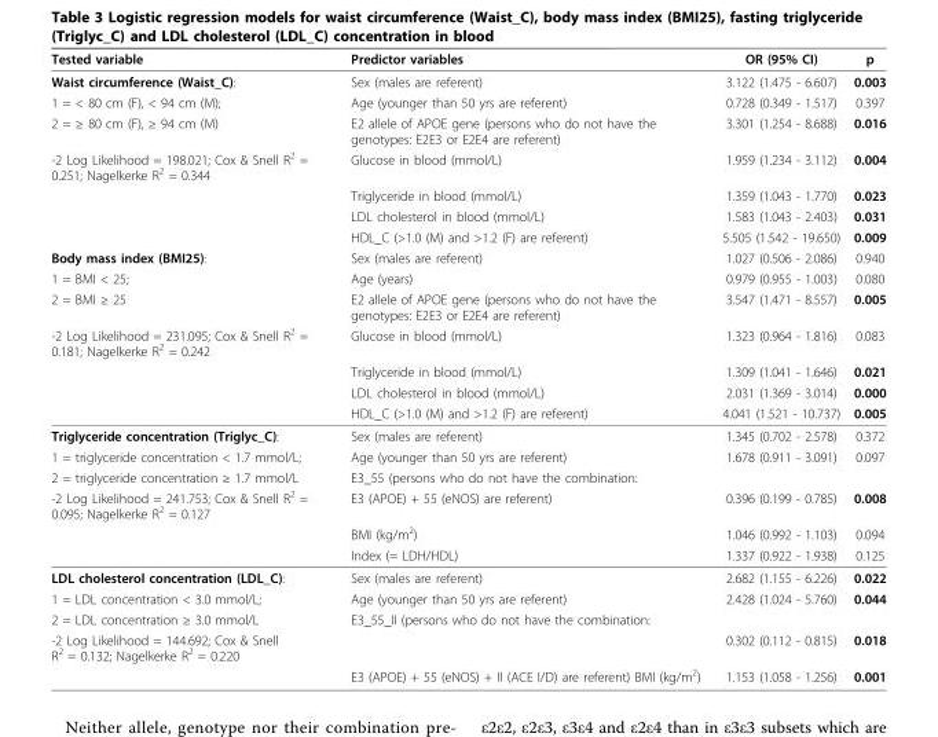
<table><thead><tr><td>Tested variable</td><td>Predictor variables</td><td>OR (95% CI)</td><td>p</td></tr></thead><tbody><tr><td>Waist circumference (Waist_C):</td><td>Sex (males are referent)</td><td>3.122 (1.475 - 6.607)</td><td>0.003</td></tr><tr><td>1 = &lt; 80 cm (F), &lt; 94 cm (M);</td><td>Age (younger than 50 yrs are referent)</td><td>0.728 (0.349 - 1.517)</td><td>0.397</td></tr><tr><td>2 = ≥ 80 cm (F), ≥ 94 cm (M)</td><td>E2 allele of APOE gene (persons who do not have the genotypes: E2E3 or E2E4 are referent)</td><td>3.301 (1.254 - 8.688)</td><td>0.016</td></tr><tr><td rowspan="4">-2 Log Likelihood = 198.021; Cox &amp; Snell R<sup>2</sup> = 0.251; Nagelkerke R<sup>2</sup> = 0.344</td><td>Glucose in blood (mmol/L)</td><td>1.959 (1.234 - 3.112)</td><td>0.004</td></tr><tr><td>Triglyceride in blood (mmol/L)</td><td>1.359 (1.043 - 1.770)</td><td>0.023</td></tr><tr><td>LDL cholesterol in blood (mmol/L)</td><td>1.583 (1.043 - 2.403)</td><td>0.031</td></tr><tr><td>HDL_C (&gt;1.0 (M) and &gt;1.2 (F) are referent)</td><td>5.505 (1.542 - 19.650)</td><td>0.009</td></tr><tr><td>Body mass index (BMI25):</td><td>Sex (males are referent)</td><td>1.027 (0.506 - 2.086)</td><td>0.940</td></tr><tr><td>1 = BMI &lt; 25;</td><td>Age (years)</td><td>0.979 (0.955 - 1.003)</td><td>0.080</td></tr><tr><td>2 = BMI ≥ 25</td><td>E2 allele of APOE gene (persons who do not have the genotypes: E2E3 or E2E4 are referent)</td><td>3.547 (1.471 - 8.557)</td><td>0.005</td></tr><tr><td rowspan="4">-2 Log Likelihood = 231.095; Cox &amp; Snell R<sup>2</sup> = 0.181; Nagelkerke R<sup>2</sup> = 0.242</td><td>Glucose in blood (mmol/L)</td><td>1.323 (0.964 - 1.816)</td><td>0.083</td></tr><tr><td>Triglyceride in blood (mmol/L)</td><td>1.309 (1.041 - 1.646)</td><td>0.021</td></tr><tr><td>LDL cholesterol in blood (mmol/L)</td><td>2.031 (1.369 - 3.014)</td><td>0.000</td></tr><tr><td>HDL_C (&gt;1.0 (M) and &gt;1.2 (F) are referent)</td><td>4.041 (1.521 - 10.737)</td><td>0.005</td></tr><tr><td>Triglyceride concentration (Triglyc_C):</td><td>Sex (males are referent)</td><td>1.345 (0.702 - 2.578)</td><td>0.372</td></tr><tr><td>1 = triglyceride concentration &lt; 1.7 mmol/L;</td><td>Age (younger than 50 yrs are referent)</td><td>1.678 (0.911 - 3.091)</td><td>0.097</td></tr><tr><td>2 = triglyceride concentration ≥ 1.7 mmol/L</td><td>E3_55 (persons who do not have the combination:</td><td></td><td></td></tr><tr><td rowspan="3">-2 Log Likelihood = 241.753; Cox &amp; Snell R<sup>2</sup> = 0.095; Nagelkerke R<sup>2</sup> = 0.127</td><td>E3 (APOE) + 55 (eNOS) are referent)</td><td>0.396 (0.199 - 0.785)</td><td>0.008</td></tr><tr><td>BMI (kg/m<sup>2</sup>)</td><td>1.046 (0.992 - 1.103)</td><td>0.094</td></tr><tr><td>Index (= LDH/HDL)</td><td>1.337 (0.922 - 1.938)</td><td>0.125</td></tr><tr><td>LDL cholesterol concentration (LDL_C):</td><td>Sex (males are referent)</td><td>2.682 (1.155 - 6.226)</td><td>0.022</td></tr><tr><td>1 = LDL concentration &lt; 3.0 mmol/L;</td><td>Age (younger than 50 yrs are referent)</td><td>2.428 (1.024 - 5.760)</td><td>0.044</td></tr><tr><td>2 = LDL concentration ≥ 3.0 mmol/L</td><td>E3_55_II (persons who do not have the combination:</td><td></td><td></td></tr><tr><td rowspan="2">-2 Log Likelihood = 144.692; Cox &amp; Snell R<sup>2</sup> = 0.132; Nagelkerke R<sup>2</sup> = 0.220</td><td></td><td>0.302 (0.112 - 0.815)</td><td>0.018</td></tr><tr><td>E3 (APOE) + 55 (eNOS) + II (ACE I/D) are referent) BMI (kg/m<sup>2</sup>)</td><td>1.153 (1.058 - 1.256)</td><td>0.001</td></tr></tbody></table>